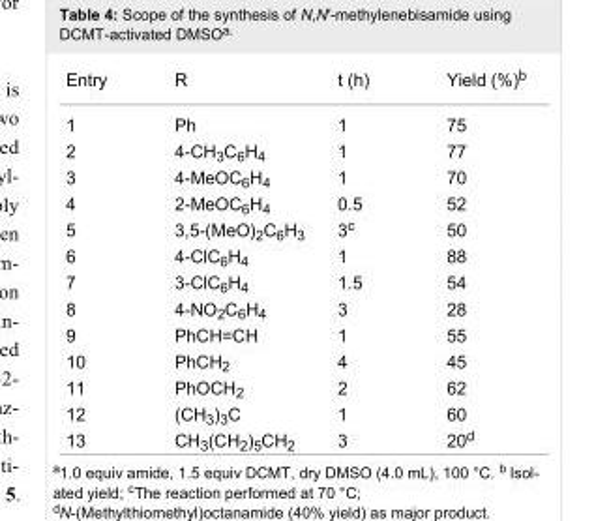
<table><tbody><tr><td>Entry</td><td>R</td><td>t (h)</td><td>Yield (%)<sup>b</sup></td></tr><tr><td>1</td><td>Ph</td><td>1</td><td>75</td></tr><tr><td>2</td><td>4-CH<sub>3</sub>C<sub>6</sub>H<sub>4</sub></td><td>1</td><td>77</td></tr><tr><td>3</td><td>4-MeOC<sub>6</sub>H<sub>4</sub></td><td>1</td><td>70</td></tr><tr><td>4</td><td>2-MeOC<sub>6</sub>H<sub>4</sub></td><td>0.5</td><td>52</td></tr><tr><td>5</td><td>3,5-(MeO)<sub>2</sub>C<sub>6</sub>H<sub>3</sub></td><td>3<sup>c</sup></td><td>50</td></tr><tr><td>6</td><td>4-ClC<sub>6</sub>H<sub>4</sub></td><td>1</td><td>88</td></tr><tr><td>7</td><td>3-ClC<sub>6</sub>H<sub>4</sub></td><td>1.5</td><td>54</td></tr><tr><td>8</td><td>4-NO<sub>2</sub>C<sub>6</sub>H<sub>4</sub></td><td>3</td><td>28</td></tr><tr><td>9</td><td>PhCH=CH</td><td>1</td><td>55</td></tr><tr><td>10</td><td>PhCH<sub>2</sub></td><td>4</td><td>45</td></tr><tr><td>11</td><td>PhOCH<sub>2</sub></td><td>2</td><td>62</td></tr><tr><td>12</td><td>(CH<sub>3</sub>)<sub>3</sub>C</td><td>1</td><td>60</td></tr><tr><td>13</td><td>CH<sub>3</sub>(CH<sub>2</sub>)<sub>5</sub>CH<sub>2</sub></td><td>3</td><td>20<sup>d</sup></td></tr></tbody></table>